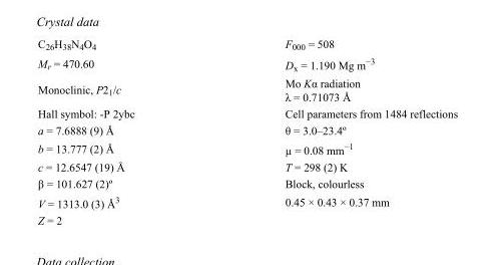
<table><tbody><tr><td>C<sub>26</sub>H<sub>38</sub>N<sub>4</sub>O<sub>4</sub></td><td>F<sub>000</sub> = 508</td></tr><tr><td>M<sub>r</sub> = 470.60</td><td>D<sub>x</sub> = 1.190 Mg m<sup>−3</sup></td></tr><tr><td>Monoclinic, P2<sub>1</sub>/c</td><td>Mo Kα radiation λ = 0.71073 Å</td></tr><tr><td>Hall symbol: -P 2ybc</td><td>Cell parameters from 1484 reflections</td></tr><tr><td>a = 7.6888 (9) Å</td><td>θ = 3.0–23.4º</td></tr><tr><td>b = 13.777 (2) Å</td><td>µ = 0.08 mm<sup>−1</sup></td></tr><tr><td>c = 12.6547 (19) Å</td><td>T = 298 (2) K</td></tr><tr><td>β = 101.627 (2)º</td><td>Block, colourless</td></tr><tr><td>V = 1313.0 (3) Å<sup>3</sup></td><td>0.45 × 0.43 × 0.37 mm</td></tr><tr><td>Z = 2</td><td></td></tr></tbody></table>